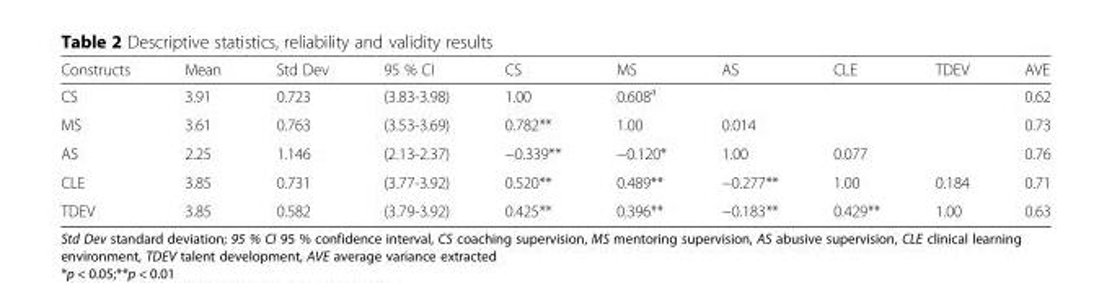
<table><thead><tr><td>Constructs</td><td>Mean</td><td>Std Dev</td><td>95 % CI</td><td>CS</td><td>MS</td><td>AS</td><td>CLE</td><td>TDEV</td><td>AVE</td></tr></thead><tbody><tr><td>CS</td><td>3.91</td><td>0.723</td><td>(3.83-3.98)</td><td>1.00</td><td>0.608<sup>a</sup></td><td></td><td></td><td></td><td>0.62</td></tr><tr><td>MS</td><td>3.61</td><td>0.763</td><td>(3.53-3.69)</td><td>0.782**</td><td>1.00</td><td>0.014</td><td></td><td></td><td>0.73</td></tr><tr><td>AS</td><td>2.25</td><td>1.146</td><td>(2.13-2.37)</td><td>−0.339**</td><td>−0.120*</td><td>1.00</td><td>0.077</td><td></td><td>0.76</td></tr><tr><td>CLE</td><td>3.85</td><td>0.731</td><td>(3.77-3.92)</td><td>0.520**</td><td>0.489**</td><td>−0.277**</td><td>1.00</td><td>0.184</td><td>0.71</td></tr><tr><td>TDEV</td><td>3.85</td><td>0.582</td><td>(3.79-3.92)</td><td>0.425**</td><td>0.396**</td><td>−0.183**</td><td>0.429**</td><td>1.00</td><td>0.63</td></tr></tbody></table>